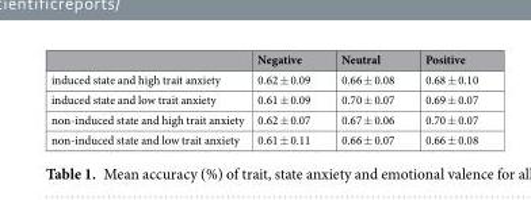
<table><thead><tr><td></td><td>Negative</td><td>Neutral</td><td>Positive</td></tr></thead><tbody><tr><td>induced state and high trait anxiety</td><td>0.62 ± 0.09</td><td>0.66 ± 0.08</td><td>0.68 ± 0.10</td></tr><tr><td>induced state and low trait anxiety</td><td>0.61 ± 0.09</td><td>0.70 ± 0.07</td><td>0.69 ± 0.07</td></tr><tr><td>non-induced state and high trait anxiety</td><td>0.62 ± 0.07</td><td>0.67 ± 0.06</td><td>0.70 ± 0.07</td></tr><tr><td>non-induced state and low trait anxiety</td><td>0.61 ± 0.11</td><td>0.66 ± 0.07</td><td>0.66 ± 0.08</td></tr></tbody></table>